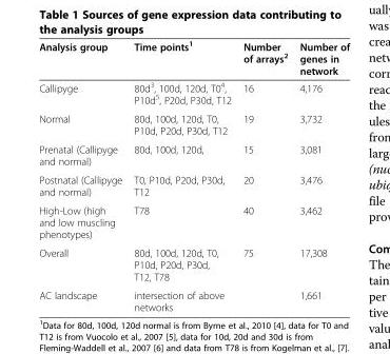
<table><thead><tr><td>Analysis group</td><td>Time points<sup>1</sup></td><td>Number of arrays<sup>2</sup></td><td>Number of genes in network</td></tr></thead><tbody><tr><td>Callipyge</td><td>80d<sup>3</sup>, 100d, 120d, T0<sup>4</sup>, P10d<sup>5</sup>, P20d, P30d, T12</td><td>16</td><td>4,176</td></tr><tr><td>Normal</td><td>80d, 100d, 120d, T0, P10d, P20d, P30d, T12</td><td>19</td><td>3,732</td></tr><tr><td>Prenatal (Callipyge and normal)</td><td>80d, 100d, 120d,</td><td>15</td><td>3,081</td></tr><tr><td>Postnatal (Callipyge and normal)</td><td>T0, P10d, P20d, P30d, T12</td><td>20</td><td>3,476</td></tr><tr><td>High-Low (high and low muscling phenotypes)</td><td>T78</td><td>40</td><td>3,462</td></tr><tr><td>Overall</td><td>80d, 100d, 120d, T0, P10d, P20d, P30d, T12, T78</td><td>75</td><td>17,308</td></tr><tr><td>AC landscape</td><td>intersection of above networks</td><td></td><td>1,661</td></tr></tbody></table>